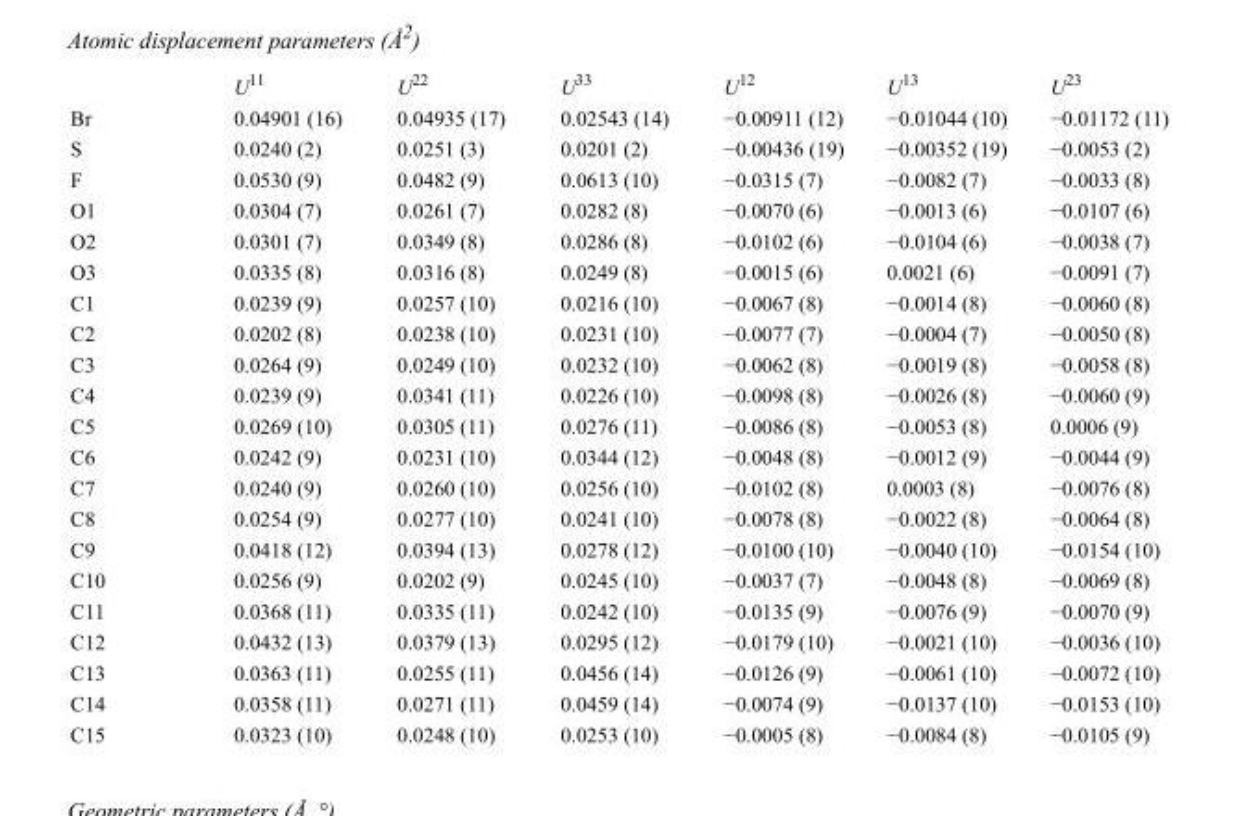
<table><thead><tr><td></td><td>U<sup>11</sup></td><td>U<sup>22</sup></td><td>U<sup>33</sup></td><td>U<sup>12</sup></td><td>U<sup>13</sup></td><td>U<sup>23</sup></td></tr></thead><tbody><tr><td>Br</td><td>0.04901 (16)</td><td>0.04935 (17)</td><td>0.02543 (14)</td><td>−0.00911 (12)</td><td>−0.01044 (10)</td><td>−0.01172 (11)</td></tr><tr><td>S</td><td>0.0240 (2)</td><td>0.0251 (3)</td><td>0.0201 (2)</td><td>−0.00436 (19)</td><td>−0.00352 (19)</td><td>−0.0053 (2)</td></tr><tr><td>F</td><td>0.0530 (9)</td><td>0.0482 (9)</td><td>0.0613 (10)</td><td>−0.0315 (7)</td><td>−0.0082 (7)</td><td>−0.0033 (8)</td></tr><tr><td>O1</td><td>0.0304 (7)</td><td>0.0261 (7)</td><td>0.0282 (8)</td><td>−0.0070 (6)</td><td>−0.0013 (6)</td><td>−0.0107 (6)</td></tr><tr><td>O2</td><td>0.0301 (7)</td><td>0.0349 (8)</td><td>0.0286 (8)</td><td>−0.0102 (6)</td><td>−0.0104 (6)</td><td>−0.0038 (7)</td></tr><tr><td>O3</td><td>0.0335 (8)</td><td>0.0316 (8)</td><td>0.0249 (8)</td><td>−0.0015 (6)</td><td>0.0021 (6)</td><td>−0.0091 (7)</td></tr><tr><td>C1</td><td>0.0239 (9)</td><td>0.0257 (10)</td><td>0.0216 (10)</td><td>−0.0067 (8)</td><td>−0.0014 (8)</td><td>−0.0060 (8)</td></tr><tr><td>C2</td><td>0.0202 (8)</td><td>0.0238 (10)</td><td>0.0231 (10)</td><td>−0.0077 (7)</td><td>−0.0004 (7)</td><td>−0.0050 (8)</td></tr><tr><td>C3</td><td>0.0264 (9)</td><td>0.0249 (10)</td><td>0.0232 (10)</td><td>−0.0062 (8)</td><td>−0.0019 (8)</td><td>−0.0058 (8)</td></tr><tr><td>C4</td><td>0.0239 (9)</td><td>0.0341 (11)</td><td>0.0226 (10)</td><td>−0.0098 (8)</td><td>−0.0026 (8)</td><td>−0.0060 (9)</td></tr><tr><td>C5</td><td>0.0269 (10)</td><td>0.0305 (11)</td><td>0.0276 (11)</td><td>−0.0086 (8)</td><td>−0.0053 (8)</td><td>0.0006 (9)</td></tr><tr><td>C6</td><td>0.0242 (9)</td><td>0.0231 (10)</td><td>0.0344 (12)</td><td>−0.0048 (8)</td><td>−0.0012 (9)</td><td>−0.0044 (9)</td></tr><tr><td>C7</td><td>0.0240 (9)</td><td>0.0260 (10)</td><td>0.0256 (10)</td><td>−0.0102 (8)</td><td>0.0003 (8)</td><td>−0.0076 (8)</td></tr><tr><td>C8</td><td>0.0254 (9)</td><td>0.0277 (10)</td><td>0.0241 (10)</td><td>−0.0078 (8)</td><td>−0.0022 (8)</td><td>−0.0064 (8)</td></tr><tr><td>C9</td><td>0.0418 (12)</td><td>0.0394 (13)</td><td>0.0278 (12)</td><td>−0.0100 (10)</td><td>−0.0040 (10)</td><td>−0.0154 (10)</td></tr><tr><td>C10</td><td>0.0256 (9)</td><td>0.0202 (9)</td><td>0.0245 (10)</td><td>−0.0037 (7)</td><td>−0.0048 (8)</td><td>−0.0069 (8)</td></tr><tr><td>C11</td><td>0.0368 (11)</td><td>0.0335 (11)</td><td>0.0242 (10)</td><td>−0.0135 (9)</td><td>−0.0076 (9)</td><td>−0.0070 (9)</td></tr><tr><td>C12</td><td>0.0432 (13)</td><td>0.0379 (13)</td><td>0.0295 (12)</td><td>−0.0179 (10)</td><td>−0.0021 (10)</td><td>−0.0036 (10)</td></tr><tr><td>C13</td><td>0.0363 (11)</td><td>0.0255 (11)</td><td>0.0456 (14)</td><td>−0.0126 (9)</td><td>−0.0061 (10)</td><td>−0.0072 (10)</td></tr><tr><td>C14</td><td>0.0358 (11)</td><td>0.0271 (11)</td><td>0.0459 (14)</td><td>−0.0074 (9)</td><td>−0.0137 (10)</td><td>−0.0153 (10)</td></tr><tr><td>C15</td><td>0.0323 (10)</td><td>0.0248 (10)</td><td>0.0253 (10)</td><td>−0.0005 (8)</td><td>−0.0084 (8)</td><td>−0.0105 (9)</td></tr></tbody></table>